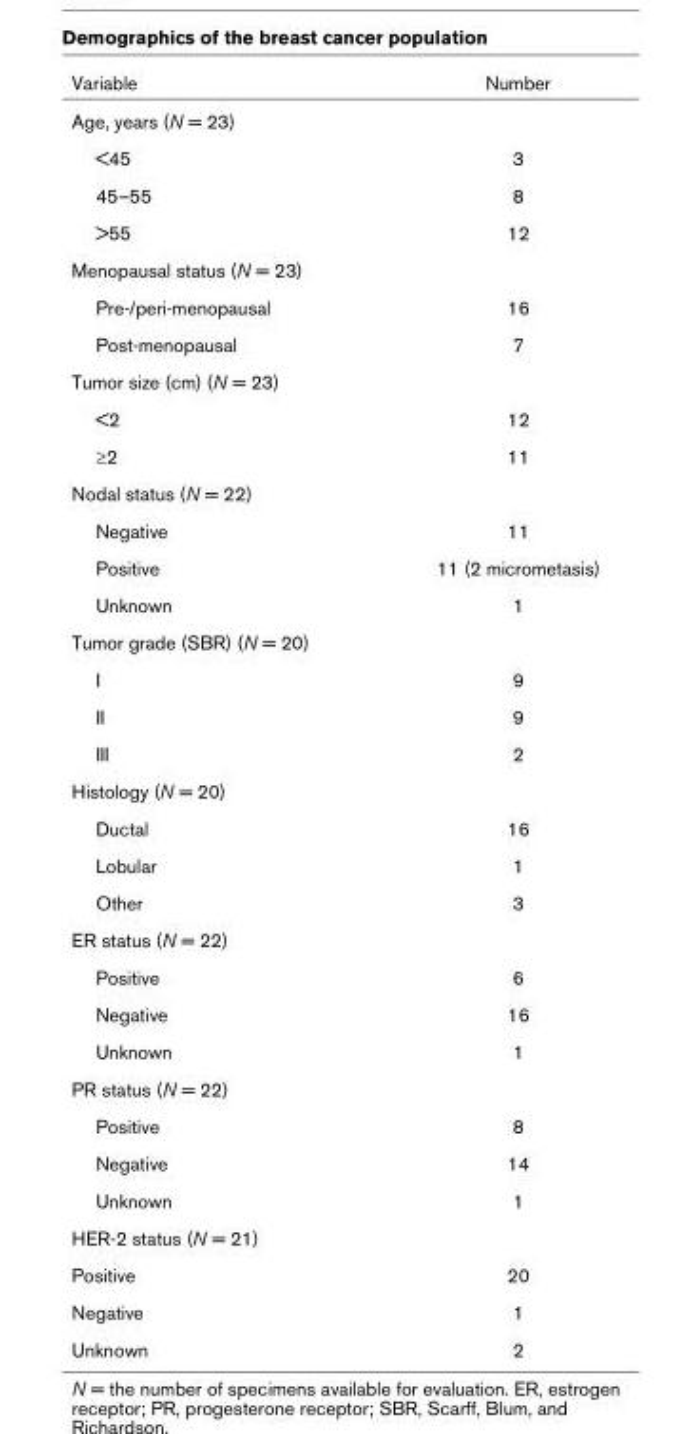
<table><thead><tr><td>Variable</td><td>Number</td></tr></thead><tbody><tr><td colspan="2">Age, years (N = 23)</td></tr><tr><td>&lt;45</td><td>3</td></tr><tr><td>45–55</td><td>8</td></tr><tr><td>&gt;55</td><td>12</td></tr><tr><td colspan="2">Menopausal status (N = 23)</td></tr><tr><td>Pre-/peri-menopausal</td><td>16</td></tr><tr><td>Post-menopausal</td><td>7</td></tr><tr><td colspan="2">Tumor size (cm) (N = 23)</td></tr><tr><td>&lt;2</td><td>12</td></tr><tr><td>≥2</td><td>11</td></tr><tr><td colspan="2">Nodal status (N = 22)</td></tr><tr><td>Negative</td><td>11</td></tr><tr><td>Positive</td><td>11 (2 micrometasis)</td></tr><tr><td>Unknown</td><td>1</td></tr><tr><td colspan="2">Tumor grade (SBR) (N = 20)</td></tr><tr><td>I</td><td>9</td></tr><tr><td>II</td><td>9</td></tr><tr><td>III</td><td>2</td></tr><tr><td colspan="2">Histology (N = 20)</td></tr><tr><td>Ductal</td><td>16</td></tr><tr><td>Lobular</td><td>1</td></tr><tr><td>Other</td><td>3</td></tr><tr><td colspan="2">ER status (N = 22)</td></tr><tr><td>Positive</td><td>6</td></tr><tr><td>Negative</td><td>16</td></tr><tr><td>Unknown</td><td>1</td></tr><tr><td colspan="2">PR status (N = 22)</td></tr><tr><td>Positive</td><td>8</td></tr><tr><td>Negative</td><td>14</td></tr><tr><td>Unknown</td><td>1</td></tr><tr><td colspan="2">HER-2 status (N = 21)</td></tr><tr><td>Positive</td><td>20</td></tr><tr><td>Negative</td><td>1</td></tr><tr><td>Unknown</td><td>2</td></tr></tbody></table>